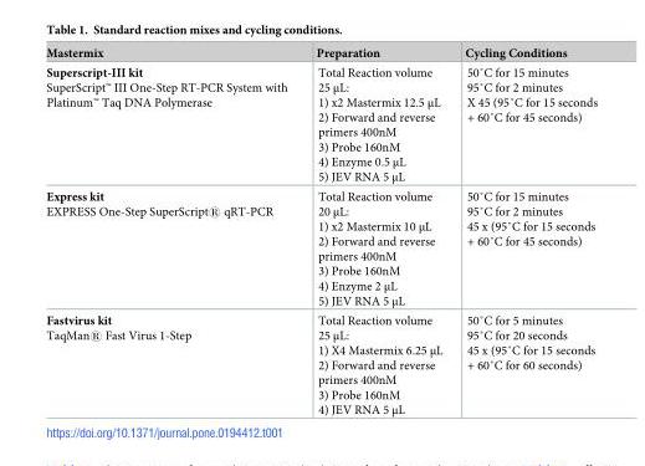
<table><thead><tr><td>Mastermix</td><td>Preparation</td><td>Cycling Conditions</td></tr></thead><tbody><tr><td>Superscript-III kit SuperScript™ III One-Step RT-PCR System with Platinum™ Taq DNA Polymerase</td><td>Total Reaction volume 25 μL: 1) x2 Mastermix 12.5 μL 2) Forward and reverse primers 400nM 3) Probe 160nM 4) Enzyme 0.5 μL 5) JEV RNA 5 μL</td><td>50˚C for 15 minutes 95˚C for 2 minutes X 45 (95˚C for 15 seconds + 60˚C for 45 seconds)</td></tr><tr><td>Express kit EXPRESS One-Step SuperScript® qRT-PCR</td><td>Total Reaction volume 20 μL: 1) x2 Mastermix 10 μL 2) Forward and reverse primers 400nM 3) Probe 160nM 4) Enzyme 2 μL 5) JEV RNA 5 μL</td><td>50˚C for 15 minutes 95˚C for 2 minutes 45 x (95˚C for 15 seconds + 60˚C for 45 seconds)</td></tr><tr><td>Fastvirus kit TaqMan® Fast Virus 1-Step</td><td>Total Reaction volume 25 μL: 1) X4 Mastermix 6.25 μL 2) Forward and reverse primers 400nM 3) Probe 160nM 4) JEV RNA 5 μL</td><td>50˚C for 5 minutes 95˚C for 20 seconds 45 x (95˚C for 15 seconds + 60˚C for 60 seconds)</td></tr></tbody></table>